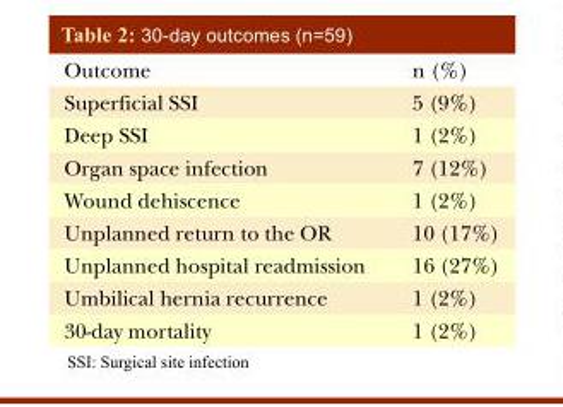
<table><thead><tr><td>Outcome</td><td>n (%)</td></tr></thead><tbody><tr><td>Superficial SSI</td><td>5 (9%)</td></tr><tr><td>Deep SSI</td><td>1 (2%)</td></tr><tr><td>Organ space infection</td><td>7 (12%)</td></tr><tr><td>Wound dehiscence</td><td>1 (2%)</td></tr><tr><td>Unplanned return to the OR</td><td>10 (17%)</td></tr><tr><td>Unplanned hospital readmission</td><td>16 (27%)</td></tr><tr><td>Umbilical hernia recurrence</td><td>1 (2%)</td></tr><tr><td>30-day mortality</td><td>1 (2%)</td></tr></tbody></table>